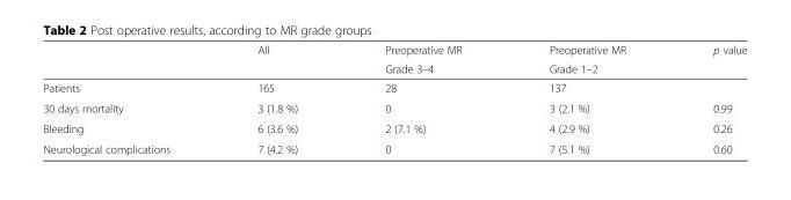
<table><thead><tr><td rowspan="2"></td><td rowspan="2">All</td><td rowspan="2">Preoperative MR Grade 3–4</td><td rowspan="2">Preoperative MR Grade 1–2</td><td rowspan="2">p value</td></tr><tr></tr></thead><tbody><tr><td>Patients</td><td>165</td><td>28</td><td>137</td><td></td></tr><tr><td>30 days mortality</td><td>3 (1.8 %)</td><td>0</td><td>3 (2.1 %)</td><td>0.99</td></tr><tr><td>Bleeding</td><td>6 (3.6 %)</td><td>2 (7.1 %)</td><td>4 (2.9 %)</td><td>0.26</td></tr><tr><td>Neurological complications</td><td>7 (4.2 %)</td><td>0</td><td>7 (5.1 %)</td><td>0.60</td></tr></tbody></table>